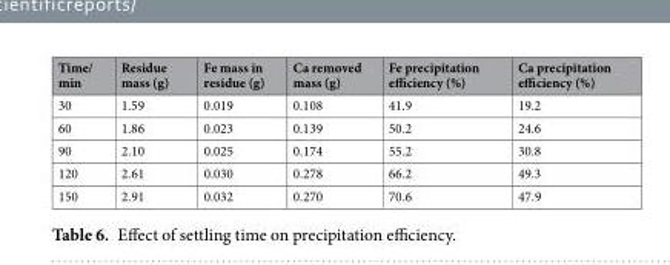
<table><thead><tr><td>Time/ min</td><td>Residue mass (g)</td><td>Fe mass in residue (g)</td><td>Ca removed mass (g)</td><td>Fe precipitation efficiency (%)</td><td>Ca precipitation efficiency (%)</td></tr></thead><tbody><tr><td>30</td><td>1.59</td><td>0.019</td><td>0.108</td><td>41.9</td><td>19.2</td></tr><tr><td>60</td><td>1.86</td><td>0.023</td><td>0.139</td><td>50.2</td><td>24.6</td></tr><tr><td>90</td><td>2.10</td><td>0.025</td><td>0.174</td><td>55.2</td><td>30.8</td></tr><tr><td>120</td><td>2.61</td><td>0.030</td><td>0.278</td><td>66.2</td><td>49.3</td></tr><tr><td>150</td><td>2.91</td><td>0.032</td><td>0.270</td><td>70.6</td><td>47.9</td></tr></tbody></table>